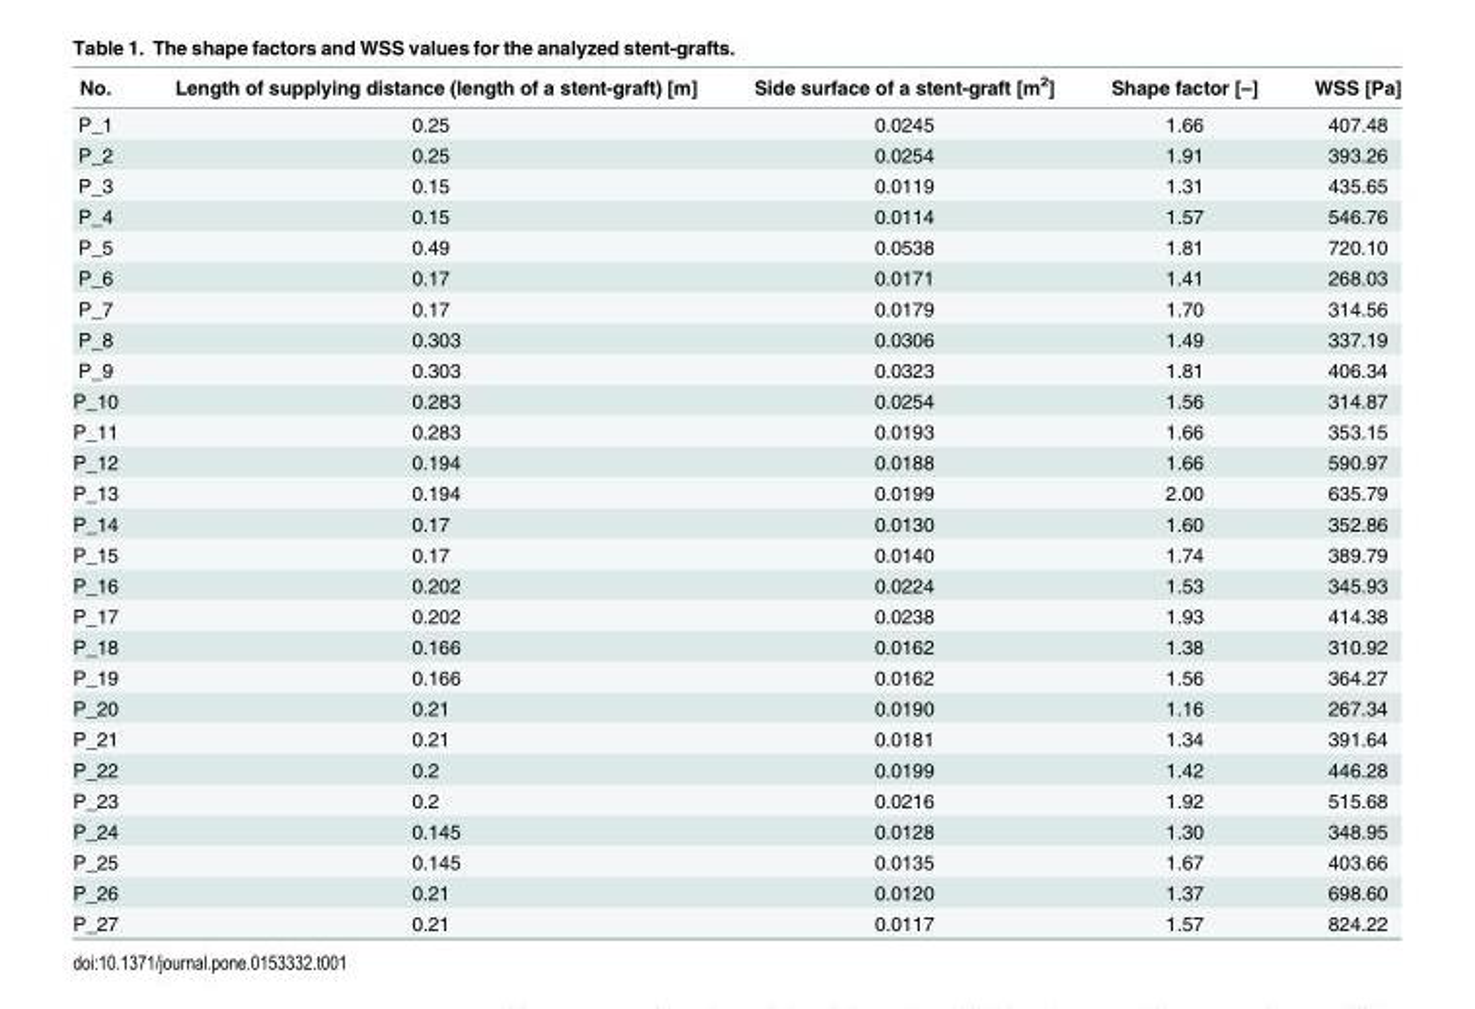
<table><thead><tr><td>No.</td><td>Length of supplying distance (length of a stent-graft) [m]</td><td>Side surface of a stent-graft [m<sup>2</sup>]</td><td>Shape factor [–]</td><td>WSS [Pa]</td></tr></thead><tbody><tr><td>P_1</td><td>0.25</td><td>0.0245</td><td>1.66</td><td>407.48</td></tr><tr><td>P_2</td><td>0.25</td><td>0.0254</td><td>1.91</td><td>393.26</td></tr><tr><td>P_3</td><td>0.15</td><td>0.0119</td><td>1.31</td><td>435.65</td></tr><tr><td>P_4</td><td>0.15</td><td>0.0114</td><td>1.57</td><td>546.76</td></tr><tr><td>P_5</td><td>0.49</td><td>0.0538</td><td>1.81</td><td>720.10</td></tr><tr><td>P_6</td><td>0.17</td><td>0.0171</td><td>1.41</td><td>268.03</td></tr><tr><td>P_7</td><td>0.17</td><td>0.0179</td><td>1.70</td><td>314.56</td></tr><tr><td>P_8</td><td>0.303</td><td>0.0306</td><td>1.49</td><td>337.19</td></tr><tr><td>P_9</td><td>0.303</td><td>0.0323</td><td>1.81</td><td>406.34</td></tr><tr><td>P_10</td><td>0.283</td><td>0.0254</td><td>1.56</td><td>314.87</td></tr><tr><td>P_11</td><td>0.283</td><td>0.0193</td><td>1.66</td><td>353.15</td></tr><tr><td>P_12</td><td>0.194</td><td>0.0188</td><td>1.66</td><td>590.97</td></tr><tr><td>P_13</td><td>0.194</td><td>0.0199</td><td>2.00</td><td>635.79</td></tr><tr><td>P_14</td><td>0.17</td><td>0.0130</td><td>1.60</td><td>352.86</td></tr><tr><td>P_15</td><td>0.17</td><td>0.0140</td><td>1.74</td><td>389.79</td></tr><tr><td>P_16</td><td>0.202</td><td>0.0224</td><td>1.53</td><td>345.93</td></tr><tr><td>P_17</td><td>0.202</td><td>0.0238</td><td>1.93</td><td>414.38</td></tr><tr><td>P_18</td><td>0.166</td><td>0.0162</td><td>1.38</td><td>310.92</td></tr><tr><td>P_19</td><td>0.166</td><td>0.0162</td><td>1.56</td><td>364.27</td></tr><tr><td>P_20</td><td>0.21</td><td>0.0190</td><td>1.16</td><td>267.34</td></tr><tr><td>P_21</td><td>0.21</td><td>0.0181</td><td>1.34</td><td>391.64</td></tr><tr><td>P_22</td><td>0.2</td><td>0.0199</td><td>1.42</td><td>446.28</td></tr><tr><td>P_23</td><td>0.2</td><td>0.0216</td><td>1.92</td><td>515.68</td></tr><tr><td>P_24</td><td>0.145</td><td>0.0128</td><td>1.30</td><td>348.95</td></tr><tr><td>P_25</td><td>0.145</td><td>0.0135</td><td>1.67</td><td>403.66</td></tr><tr><td>P_26</td><td>0.21</td><td>0.0120</td><td>1.37</td><td>698.60</td></tr><tr><td>P_27</td><td>0.21</td><td>0.0117</td><td>1.57</td><td>824.22</td></tr></tbody></table>